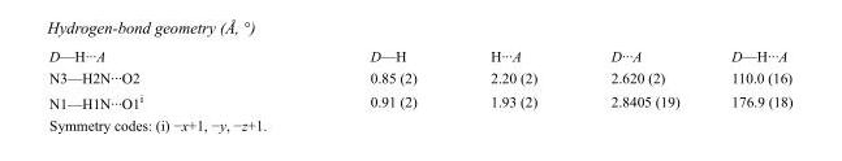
<table><tbody><tr><td>D—H···A</td><td>D—H</td><td>H···A</td><td>D···A</td><td>D—H···A</td></tr><tr><td>N3—H2N···O2</td><td>0.85 (2)</td><td>2.20 (2)</td><td>2.620 (2)</td><td>110.0 (16)</td></tr><tr><td>N1—H1N···O1<sup>i</sup></td><td>0.91 (2)</td><td>1.93 (2)</td><td>2.8405 (19)</td><td>176.9 (18)</td></tr></tbody></table>